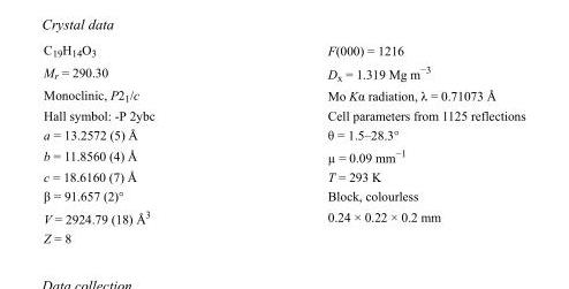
<table><tbody><tr><td>C<sub>19</sub>H<sub>14</sub>O<sub>3</sub></td><td>F(000) = 1216</td></tr><tr><td>M<sub>r</sub> = 290.30</td><td>D<sub>x</sub> = 1.319 Mg m<sup>−3</sup></td></tr><tr><td>Monoclinic, P2<sub>1</sub>/c</td><td>Mo Kα radiation, λ = 0.71073 Å</td></tr><tr><td>Hall symbol: -P 2ybc</td><td>Cell parameters from 1125 reflections</td></tr><tr><td>a = 13.2572 (5) Å</td><td>θ = 1.5–28.3°</td></tr><tr><td>b = 11.8560 (4) Å</td><td>µ = 0.09 mm<sup>−1</sup></td></tr><tr><td>c = 18.6160 (7) Å</td><td>T = 293 K</td></tr><tr><td>β = 91.657 (2)°</td><td>Block, colourless</td></tr><tr><td>V = 2924.79 (18) Å<sup>3</sup></td><td>0.24 × 0.22 × 0.2 mm</td></tr><tr><td>Z = 8</td><td></td></tr></tbody></table>